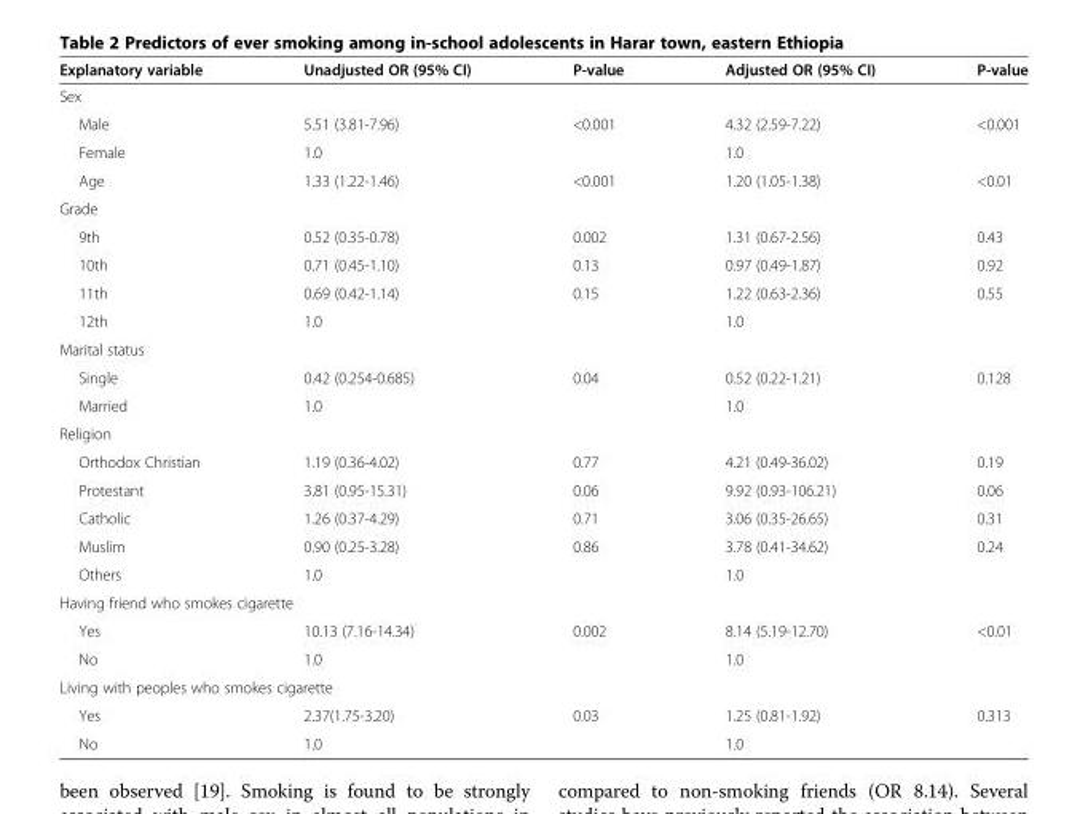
<table><thead><tr><td>Explanatory variable</td><td>Unadjusted OR (95% CI)</td><td>P-value</td><td>Adjusted OR (95% CI)</td><td>P-value</td></tr></thead><tbody><tr><td colspan="5">Sex</td></tr><tr><td>Male</td><td>5.51 (3.81-7.96)</td><td>&lt;0.001</td><td>4.32 (2.59-7.22)</td><td>&lt;0.001</td></tr><tr><td>Female</td><td>1.0</td><td></td><td>1.0</td><td></td></tr><tr><td>Age</td><td>1.33 (1.22-1.46)</td><td>&lt;0.001</td><td>1.20 (1.05-1.38)</td><td>&lt;0.01</td></tr><tr><td colspan="5">Grade</td></tr><tr><td>9th</td><td>0.52 (0.35-0.78)</td><td>0.002</td><td>1.31 (0.67-2.56)</td><td>0.43</td></tr><tr><td>10th</td><td>0.71 (0.45-1.10)</td><td>0.13</td><td>0.97 (0.49-1.87)</td><td>0.92</td></tr><tr><td>11th</td><td>0.69 (0.42-1.14)</td><td>0.15</td><td>1.22 (0.63-2.36)</td><td>0.55</td></tr><tr><td>12th</td><td>1.0</td><td></td><td>1.0</td><td></td></tr><tr><td colspan="5">Marital status</td></tr><tr><td>Single</td><td>0.42 (0.254-0.685)</td><td>0.04</td><td>0.52 (0.22-1.21)</td><td>0.128</td></tr><tr><td>Married</td><td>1.0</td><td></td><td>1.0</td><td></td></tr><tr><td colspan="5">Religion</td></tr><tr><td>Orthodox Christian</td><td>1.19 (0.36-4.02)</td><td>0.77</td><td>4.21 (0.49-36.02)</td><td>0.19</td></tr><tr><td>Protestant</td><td>3.81 (0.95-15.31)</td><td>0.06</td><td>9.92 (0.93-106.21)</td><td>0.06</td></tr><tr><td>Catholic</td><td>1.26 (0.37-4.29)</td><td>0.71</td><td>3.06 (0.35-26.65)</td><td>0.31</td></tr><tr><td>Muslim</td><td>0.90 (0.25-3.28)</td><td>0.86</td><td>3.78 (0.41-34.62)</td><td>0.24</td></tr><tr><td>Others</td><td>1.0</td><td></td><td>1.0</td><td></td></tr><tr><td colspan="5">Having friend who smokes cigarette</td></tr><tr><td>Yes</td><td>10.13 (7.16-14.34)</td><td>0.002</td><td>8.14 (5.19-12.70)</td><td>&lt;0.01</td></tr><tr><td>No</td><td>1.0</td><td></td><td>1.0</td><td></td></tr><tr><td colspan="5">Living with peoples who smokes cigarette</td></tr><tr><td>Yes</td><td>2.37(1.75-3.20)</td><td>0.03</td><td>1.25 (0.81-1.92)</td><td>0.313</td></tr><tr><td>No</td><td>1.0</td><td></td><td>1.0</td><td></td></tr></tbody></table>